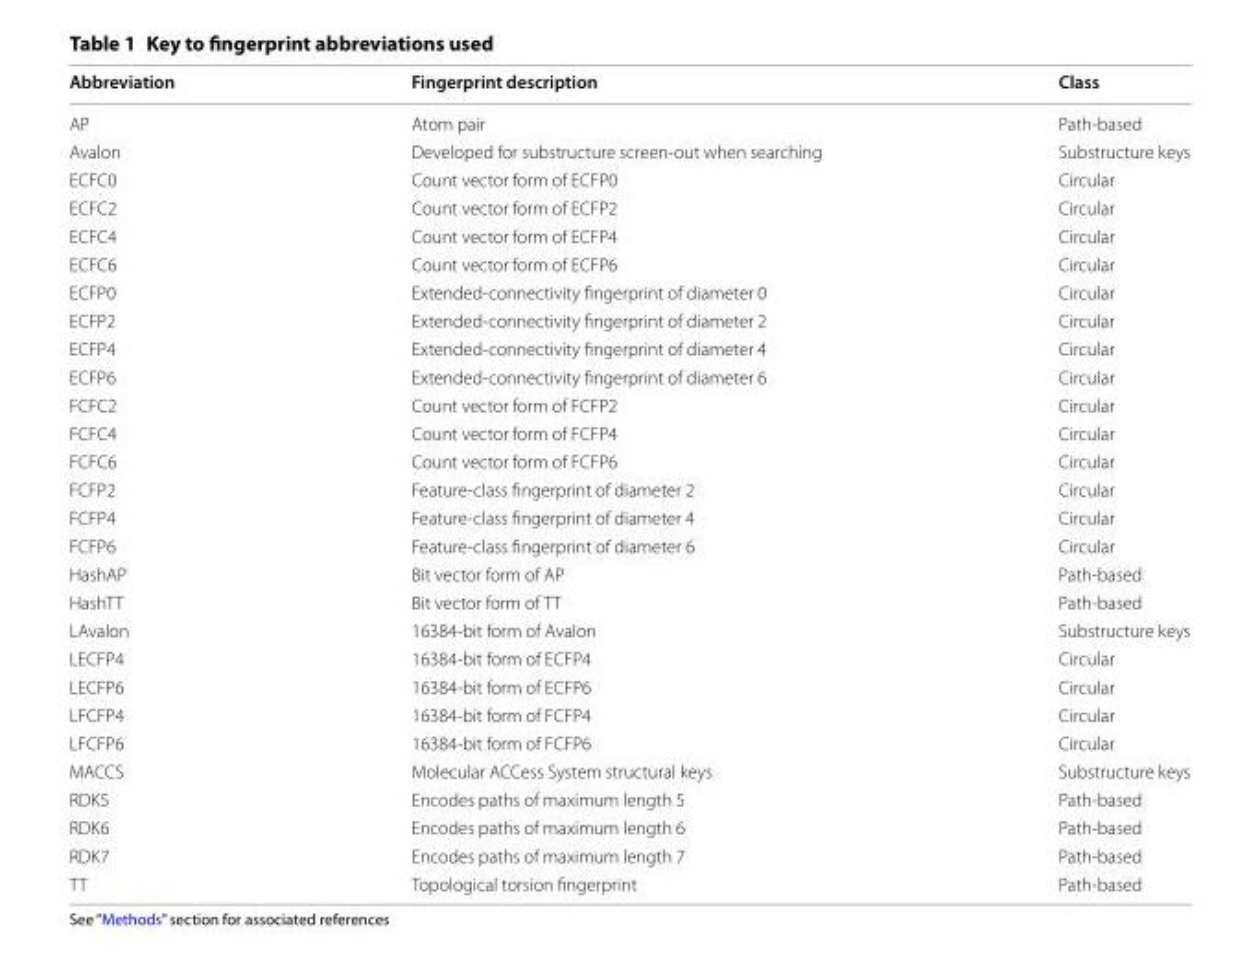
<table><thead><tr><td>Abbreviation</td><td>Fingerprint description</td><td>Class</td></tr></thead><tbody><tr><td>AP</td><td>Atom pair</td><td>Path-based</td></tr><tr><td>Avalon</td><td>Developed for substructure screen-out when searching</td><td>Substructure keys</td></tr><tr><td>ECFC0</td><td>Count vector form of ECFP0</td><td>Circular</td></tr><tr><td>ECFC2</td><td>Count vector form of ECFP2</td><td>Circular</td></tr><tr><td>ECFC4</td><td>Count vector form of ECFP4</td><td>Circular</td></tr><tr><td>ECFC6</td><td>Count vector form of ECFP6</td><td>Circular</td></tr><tr><td>ECFP0</td><td>Extended-connectivity fingerprint of diameter 0</td><td>Circular</td></tr><tr><td>ECFP2</td><td>Extended-connectivity fingerprint of diameter 2</td><td>Circular</td></tr><tr><td>ECFP4</td><td>Extended-connectivity fingerprint of diameter 4</td><td>Circular</td></tr><tr><td>ECFP6</td><td>Extended-connectivity fingerprint of diameter 6</td><td>Circular</td></tr><tr><td>FCFC2</td><td>Count vector form of FCFP2</td><td>Circular</td></tr><tr><td>FCFC4</td><td>Count vector form of FCFP4</td><td>Circular</td></tr><tr><td>FCFC6</td><td>Count vector form of FCFP6</td><td>Circular</td></tr><tr><td>FCFP2</td><td>Feature-class fingerprint of diameter 2</td><td>Circular</td></tr><tr><td>FCFP4</td><td>Feature-class fingerprint of diameter 4</td><td>Circular</td></tr><tr><td>FCFP6</td><td>Feature-class fingerprint of diameter 6</td><td>Circular</td></tr><tr><td>HashAP</td><td>Bit vector form of AP</td><td>Path-based</td></tr><tr><td>HashTT</td><td>Bit vector form of TT</td><td>Path-based</td></tr><tr><td>LAvalon</td><td>16384-bit form of Avalon</td><td>Substructure keys</td></tr><tr><td>LECFP4</td><td>16384-bit form of ECFP4</td><td>Circular</td></tr><tr><td>LECFP6</td><td>16384-bit form of ECFP6</td><td>Circular</td></tr><tr><td>LFCFP4</td><td>16384-bit form of FCFP4</td><td>Circular</td></tr><tr><td>LFCFP6</td><td>16384-bit form of FCFP6</td><td>Circular</td></tr><tr><td>MACCS</td><td>Molecular ACCess System structural keys</td><td>Substructure keys</td></tr><tr><td>RDK5</td><td>Encodes paths of maximum length 5</td><td>Path-based</td></tr><tr><td>RDK6</td><td>Encodes paths of maximum length 6</td><td>Path-based</td></tr><tr><td>RDK7</td><td>Encodes paths of maximum length 7</td><td>Path-based</td></tr><tr><td>TT</td><td>Topological torsion fingerprint</td><td>Path-based</td></tr></tbody></table>